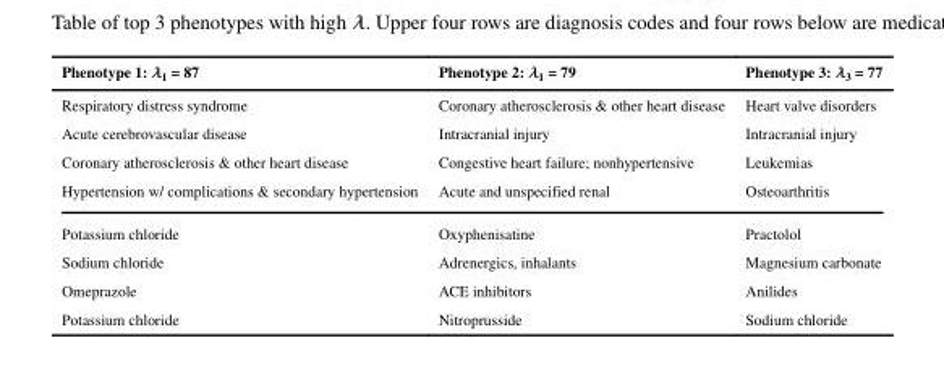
<table><thead><tr><td>Phenotype 1: λ<sub>1</sub> = 87</td><td>Phenotype 2: λ<sub>1</sub> = 79</td><td>Phenotype 3: λ<sub>3</sub> = 77</td></tr></thead><tbody><tr><td>Respiratory distress syndrome</td><td>Coronary atherosclerosis &amp; other heart disease</td><td>Heart valve disorders</td></tr><tr><td>Acute cerebrovascular disease</td><td>Intracranial injury</td><td>Intracranial injury</td></tr><tr><td>Coronary atherosclerosis &amp; other heart disease</td><td>Congestive heart failure; nonhypertensive</td><td>Leukemias</td></tr><tr><td>Hypertension w/ complications &amp; secondary hypertension</td><td>Acute and unspecified renal</td><td>Osteoarthritis</td></tr><tr><td>Potassium chloride</td><td>Oxyphenisatine</td><td>Practolol</td></tr><tr><td>Sodium chloride</td><td>Adrenergics, inhalants</td><td>Magnesium carbonate</td></tr><tr><td>Omeprazole</td><td>ACE inhibitors</td><td>Anilides</td></tr><tr><td>Potassium chloride</td><td>Nitroprusside</td><td>Sodium chloride</td></tr></tbody></table>